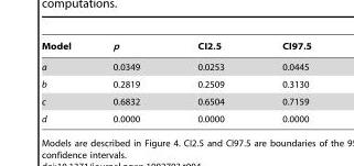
<table><thead><tr><td>Model</td><td>p</td><td>CI2.5</td><td>CI97.5</td></tr></thead><tbody><tr><td>a</td><td>0.0349</td><td>0.0253</td><td>0.0445</td></tr><tr><td>b</td><td>0.2819</td><td>0.2509</td><td>0.3130</td></tr><tr><td>c</td><td>0.6832</td><td>0.6504</td><td>0.7159</td></tr><tr><td>d</td><td>0.0000</td><td>0.0000</td><td>0.0000</td></tr></tbody></table>